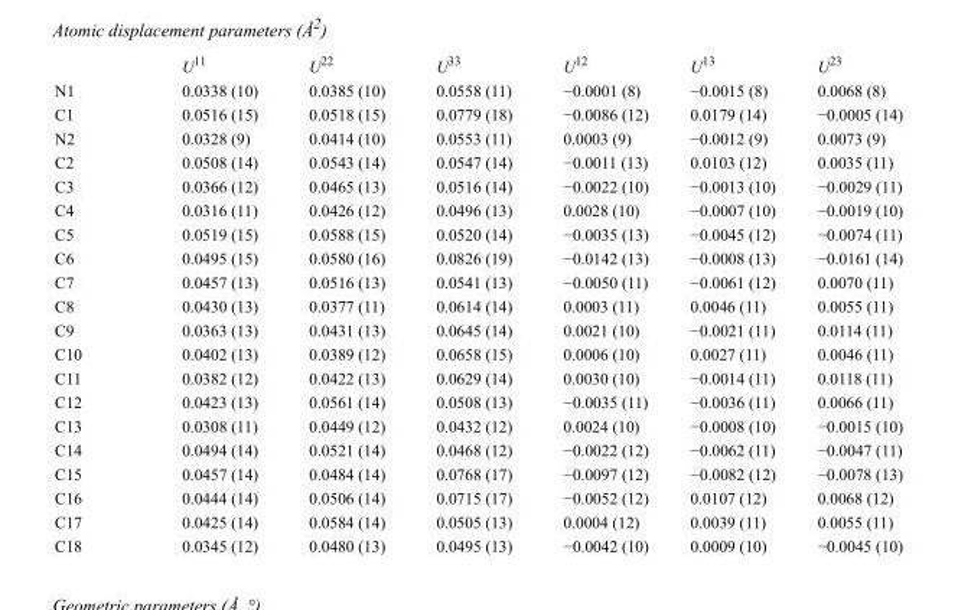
<table><thead><tr><td></td><td>U<sup>11</sup></td><td>U<sup>22</sup></td><td>U<sup>33</sup></td><td>U<sup>12</sup></td><td>U<sup>13</sup></td><td>U<sup>23</sup></td></tr></thead><tbody><tr><td>N1</td><td>0.0338 (10)</td><td>0.0385 (10)</td><td>0.0558 (11)</td><td>−0.0001 (8)</td><td>−0.0015 (8)</td><td>0.0068 (8)</td></tr><tr><td>C1</td><td>0.0516 (15)</td><td>0.0518 (15)</td><td>0.0779 (18)</td><td>−0.0086 (12)</td><td>0.0179 (14)</td><td>−0.0005 (14)</td></tr><tr><td>N2</td><td>0.0328 (9)</td><td>0.0414 (10)</td><td>0.0553 (11)</td><td>0.0003 (9)</td><td>−0.0012 (9)</td><td>0.0073 (9)</td></tr><tr><td>C2</td><td>0.0508 (14)</td><td>0.0543 (14)</td><td>0.0547 (14)</td><td>−0.0011 (13)</td><td>0.0103 (12)</td><td>0.0035 (11)</td></tr><tr><td>C3</td><td>0.0366 (12)</td><td>0.0465 (13)</td><td>0.0516 (14)</td><td>−0.0022 (10)</td><td>−0.0013 (10)</td><td>−0.0029 (11)</td></tr><tr><td>C4</td><td>0.0316 (11)</td><td>0.0426 (12)</td><td>0.0496 (13)</td><td>0.0028 (10)</td><td>−0.0007 (10)</td><td>−0.0019 (10)</td></tr><tr><td>C5</td><td>0.0519 (15)</td><td>0.0588 (15)</td><td>0.0520 (14)</td><td>−0.0035 (13)</td><td>−0.0045 (12)</td><td>−0.0074 (11)</td></tr><tr><td>C6</td><td>0.0495 (15)</td><td>0.0580 (16)</td><td>0.0826 (19)</td><td>−0.0142 (13)</td><td>−0.0008 (13)</td><td>−0.0161 (14)</td></tr><tr><td>C7</td><td>0.0457 (13)</td><td>0.0516 (13)</td><td>0.0541 (13)</td><td>−0.0050 (11)</td><td>−0.0061 (12)</td><td>0.0070 (11)</td></tr><tr><td>C8</td><td>0.0430 (13)</td><td>0.0377 (11)</td><td>0.0614 (14)</td><td>0.0003 (11)</td><td>0.0046 (11)</td><td>0.0055 (11)</td></tr><tr><td>C9</td><td>0.0363 (13)</td><td>0.0431 (13)</td><td>0.0645 (14)</td><td>0.0021 (10)</td><td>−0.0021 (11)</td><td>0.0114 (11)</td></tr><tr><td>C10</td><td>0.0402 (13)</td><td>0.0389 (12)</td><td>0.0658 (15)</td><td>0.0006 (10)</td><td>0.0027 (11)</td><td>0.0046 (11)</td></tr><tr><td>C11</td><td>0.0382 (12)</td><td>0.0422 (13)</td><td>0.0629 (14)</td><td>0.0030 (10)</td><td>−0.0014 (11)</td><td>0.0118 (11)</td></tr><tr><td>C12</td><td>0.0423 (13)</td><td>0.0561 (14)</td><td>0.0508 (13)</td><td>−0.0035 (11)</td><td>−0.0036 (11)</td><td>0.0066 (11)</td></tr><tr><td>C13</td><td>0.0308 (11)</td><td>0.0449 (12)</td><td>0.0432 (12)</td><td>0.0024 (10)</td><td>−0.0008 (10)</td><td>−0.0015 (10)</td></tr><tr><td>C14</td><td>0.0494 (14)</td><td>0.0521 (14)</td><td>0.0468 (12)</td><td>−0.0022 (12)</td><td>−0.0062 (11)</td><td>−0.0047 (11)</td></tr><tr><td>C15</td><td>0.0457 (14)</td><td>0.0484 (14)</td><td>0.0768 (17)</td><td>−0.0097 (12)</td><td>−0.0082 (12)</td><td>−0.0078 (13)</td></tr><tr><td>C16</td><td>0.0444 (14)</td><td>0.0506 (14)</td><td>0.0715 (17)</td><td>−0.0052 (12)</td><td>0.0107 (12)</td><td>0.0068 (12)</td></tr><tr><td>C17</td><td>0.0425 (14)</td><td>0.0584 (14)</td><td>0.0505 (13)</td><td>0.0004 (12)</td><td>0.0039 (11)</td><td>0.0055 (11)</td></tr><tr><td>C18</td><td>0.0345 (12)</td><td>0.0480 (13)</td><td>0.0495 (13)</td><td>−0.0042 (10)</td><td>0.0009 (10)</td><td>−0.0045 (10)</td></tr></tbody></table>